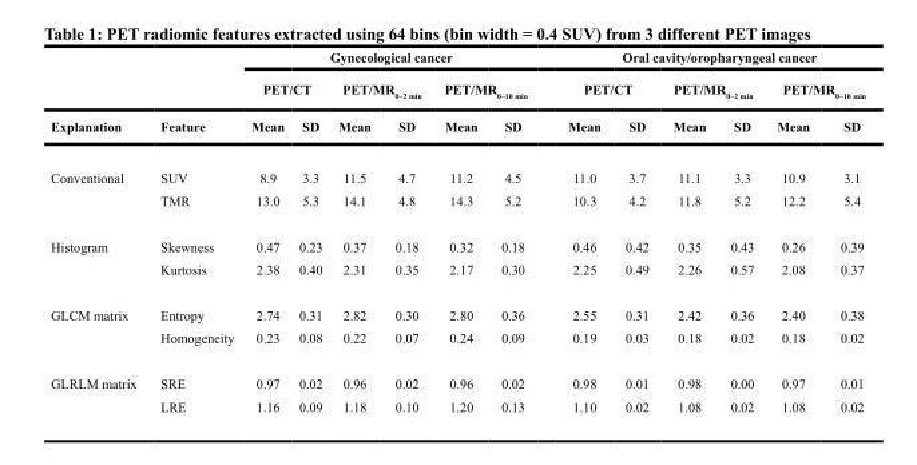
<table><thead><tr><td rowspan="3">Explanation</td><td rowspan="3">Feature</td><td colspan="6">Gynecological cancer</td><td colspan="6">Oral cavity/oropharyngeal cancer</td></tr><tr><td colspan="2">PET/CT</td><td colspan="2">PET/MR<sub>0–2 min</sub></td><td colspan="2">PET/MR<sub>0–10 min</sub></td><td colspan="2">PET/CT</td><td colspan="2">PET/MR<sub>0–2 min</sub></td><td colspan="2">PET/MR<sub>0–10 min</sub></td></tr><tr><td>Mean</td><td>SD</td><td>Mean</td><td>SD</td><td>Mean</td><td>SD</td><td>Mean</td><td>SD</td><td>Mean</td><td>SD</td><td>Mean</td><td>SD</td></tr></thead><tbody><tr><td rowspan="2">Conventional</td><td>SUV</td><td>8.9</td><td>3.3</td><td>11.5</td><td>4.7</td><td>11.2</td><td>4.5</td><td>11.0</td><td>3.7</td><td>11.1</td><td>3.3</td><td>10.9</td><td>3.1</td></tr><tr><td>TMR</td><td>13.0</td><td>5.3</td><td>14.1</td><td>4.8</td><td>14.3</td><td>5.2</td><td>10.3</td><td>4.2</td><td>11.8</td><td>5.2</td><td>12.2</td><td>5.4</td></tr><tr><td rowspan="2">Histogram</td><td>Skewness</td><td>0.47</td><td>0.23</td><td>0.37</td><td>0.18</td><td>0.32</td><td>0.18</td><td>0.46</td><td>0.42</td><td>0.35</td><td>0.43</td><td>0.26</td><td>0.39</td></tr><tr><td>Kurtosis</td><td>2.38</td><td>0.40</td><td>2.31</td><td>0.35</td><td>2.17</td><td>0.30</td><td>2.25</td><td>0.49</td><td>2.26</td><td>0.57</td><td>2.08</td><td>0.37</td></tr><tr><td rowspan="2">GLCM matrix</td><td>Entropy</td><td>2.74</td><td>0.31</td><td>2.82</td><td>0.30</td><td>2.80</td><td>0.36</td><td>2.55</td><td>0.31</td><td>2.42</td><td>0.36</td><td>2.40</td><td>0.38</td></tr><tr><td>Homogeneity</td><td>0.23</td><td>0.08</td><td>0.22</td><td>0.07</td><td>0.24</td><td>0.09</td><td>0.19</td><td>0.03</td><td>0.18</td><td>0.02</td><td>0.18</td><td>0.02</td></tr><tr><td rowspan="2">GLRLM matrix</td><td>SRE</td><td>0.97</td><td>0.02</td><td>0.96</td><td>0.02</td><td>0.96</td><td>0.02</td><td>0.98</td><td>0.01</td><td>0.98</td><td>0.00</td><td>0.97</td><td>0.01</td></tr><tr><td>LRE</td><td>1.16</td><td>0.09</td><td>1.18</td><td>0.10</td><td>1.20</td><td>0.13</td><td>1.10</td><td>0.02</td><td>1.08</td><td>0.02</td><td>1.08</td><td>0.02</td></tr></tbody></table>